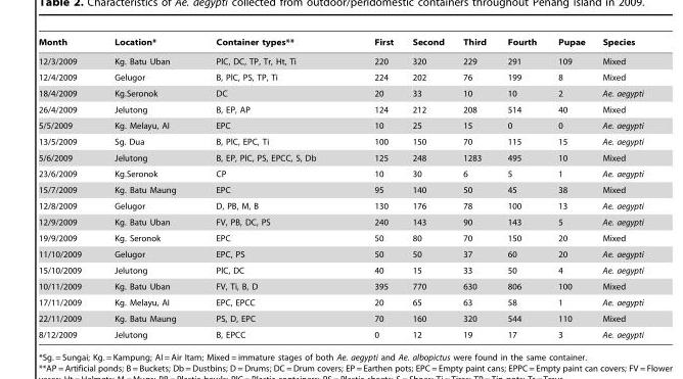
<table><thead><tr><td>Month</td><td>Location*</td><td>Container types**</td><td>First</td><td>Second</td><td>Third</td><td>Fourth</td><td>Pupae</td><td>Species</td></tr></thead><tbody><tr><td>12/3/2009</td><td>Kg. Batu Uban</td><td>PlC, DC, TP, Tr, Ht, Ti</td><td>220</td><td>320</td><td>229</td><td>291</td><td>109</td><td>Mixed</td></tr><tr><td>12/4/2009</td><td>Gelugor</td><td>B, PlC, PS, TP, Ti</td><td>224</td><td>202</td><td>76</td><td>199</td><td>8</td><td>Mixed</td></tr><tr><td>18/4/2009</td><td>Kg.Seronok</td><td>DC</td><td>20</td><td>33</td><td>10</td><td>10</td><td>2</td><td>Ae. aegypti</td></tr><tr><td>26/4/2009</td><td>Jelutong</td><td>B, EP, AP</td><td>124</td><td>212</td><td>208</td><td>514</td><td>40</td><td>Mixed</td></tr><tr><td>5/5/2009</td><td>Kg. Melayu, AI</td><td>EPC</td><td>10</td><td>25</td><td>15</td><td>0</td><td>0</td><td>Ae. aegypti</td></tr><tr><td>13/5/2009</td><td>Sg. Dua</td><td>B, PlC, EPC, Ti</td><td>100</td><td>150</td><td>70</td><td>115</td><td>15</td><td>Ae. aegypti</td></tr><tr><td>5/6/2009</td><td>Jelutong</td><td>B, EP, PlC, PS, EPCC, S, Db</td><td>125</td><td>248</td><td>1283</td><td>495</td><td>10</td><td>Mixed</td></tr><tr><td>23/6/2009</td><td>Kg.Seronok</td><td>CP</td><td>10</td><td>30</td><td>6</td><td>5</td><td>1</td><td>Ae. aegypti</td></tr><tr><td>15/7/2009</td><td>Kg. Batu Maung</td><td>EPC</td><td>95</td><td>140</td><td>50</td><td>45</td><td>38</td><td>Mixed</td></tr><tr><td>12/8/2009</td><td>Gelugor</td><td>D, PB, M, B</td><td>130</td><td>176</td><td>78</td><td>100</td><td>13</td><td>Ae. aegypti</td></tr><tr><td>12/9/2009</td><td>Kg. Batu Uban</td><td>FV, PB, DC, PS</td><td>240</td><td>143</td><td>90</td><td>143</td><td>5</td><td>Ae. aegypti</td></tr><tr><td>19/9/2009</td><td>Kg. Seronok</td><td>EPC</td><td>50</td><td>80</td><td>70</td><td>150</td><td>20</td><td>Mixed</td></tr><tr><td>11/10/2009</td><td>Gelugor</td><td>EPC, PS</td><td>50</td><td>50</td><td>37</td><td>60</td><td>20</td><td>Ae. aegypti</td></tr><tr><td>15/10/2009</td><td>Jelutong</td><td>PlC, DC</td><td>40</td><td>15</td><td>33</td><td>50</td><td>4</td><td>Ae. aegypti</td></tr><tr><td>10/11/2009</td><td>Kg. Batu Uban</td><td>FV, Ti, B, D</td><td>395</td><td>770</td><td>630</td><td>806</td><td>100</td><td>Mixed</td></tr><tr><td>17/11/2009</td><td>Kg. Melayu, AI</td><td>EPC, EPCC</td><td>20</td><td>65</td><td>63</td><td>58</td><td>1</td><td>Ae. aegypti</td></tr><tr><td>22/11/2009</td><td>Kg. Batu Maung</td><td>PS, D, EPC</td><td>70</td><td>160</td><td>320</td><td>544</td><td>110</td><td>Mixed</td></tr><tr><td>8/12/2009</td><td>Jelutong</td><td>B, EPCC</td><td>0</td><td>12</td><td>19</td><td>17</td><td>3</td><td>Ae. aegypti</td></tr></tbody></table>